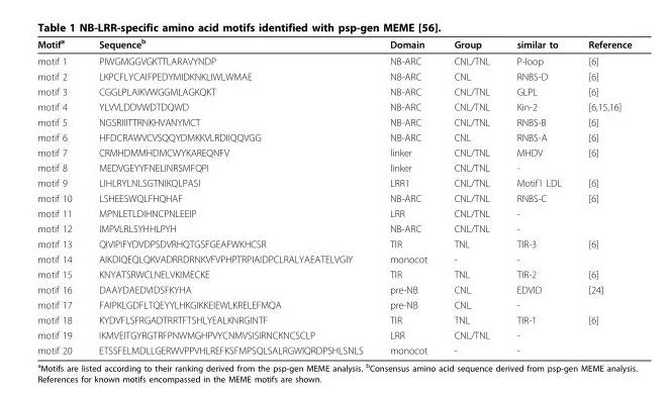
<table><thead><tr><td>Motif<sup>a</sup></td><td>Sequence<sup>b</sup></td><td>Domain</td><td>Group</td><td>similar to</td><td>Reference</td></tr></thead><tbody><tr><td>motif 1</td><td>PIWGMGGVGKTTLARAVYNDP</td><td>NB-ARC</td><td>CNL/TNL</td><td>P-loop</td><td>[6]</td></tr><tr><td>motif 2</td><td>LKPCFLYCAIFPEDYMIDKNKLIWLWMAE</td><td>NB-ARC</td><td>CNL</td><td>RNBS-D</td><td>[6]</td></tr><tr><td>motif 3</td><td>CGGLPLAIKVWGGMLAGKQKT</td><td>NB-ARC</td><td>CNL/TNL</td><td>GLPL</td><td>[6]</td></tr><tr><td>motif 4</td><td>YLVVLDDVWDTDQWD</td><td>NB-ARC</td><td>CNL/TNL</td><td>Kin-2</td><td>[6,15,16]</td></tr><tr><td>motif 5</td><td>NGSRIIITTRNKHVANYMCT</td><td>NB-ARC</td><td>CNL/TNL</td><td>RNBS-B</td><td>[6]</td></tr><tr><td>motif 6</td><td>HFDCRAWVCVSQQYDMKKVLRDIIQQVGG</td><td>NB-ARC</td><td>CNL</td><td>RNBS-A</td><td>[6]</td></tr><tr><td>motif 7</td><td>CRMHDMMHDMCWYKAREQNFV</td><td>linker</td><td>CNL/TNL</td><td>MHDV</td><td>[6]</td></tr><tr><td>motif 8</td><td>MEDVGEYYFNELINRSMFQPI</td><td>linker</td><td>CNL/TNL</td><td>-</td><td></td></tr><tr><td>motif 9</td><td>LIHLRYLNLSGTNIKQLPASI</td><td>LRR1</td><td>CNL/TNL</td><td>Motif1 LDL</td><td>[6]</td></tr><tr><td>motif 10</td><td>LSHEESWQLFHQHAF</td><td>NB-ARC</td><td>CNL/TNL</td><td>RNBS-C</td><td>[6]</td></tr><tr><td>motif 11</td><td>MPNLETLDIHNCPNLEEIP</td><td>LRR</td><td>CNL/TNL</td><td>-</td><td></td></tr><tr><td>motif 12</td><td>IMPVLRLSYHHLPYH</td><td>NB-ARC</td><td>CNL/TNL</td><td>-</td><td></td></tr><tr><td>motif 13</td><td>QIVIPIFYDVDPSDVRHQTGSFGEAFWKHCSR</td><td>TIR</td><td>TNL</td><td>TIR-3</td><td>[6]</td></tr><tr><td>motif 14</td><td>AIKDIQEQLQKVADRRDRNKVFVPHPTRPIAIDPCLRALYAEATELVGIY</td><td>monocot</td><td>-</td><td>-</td><td></td></tr><tr><td>motif 15</td><td>KNYATSRWCLNELVKIMECKE</td><td>TIR</td><td>TNL</td><td>TIR-2</td><td>[6]</td></tr><tr><td>motif 16</td><td>DAAYDAEDVIDSFKYHA</td><td>pre-NB</td><td>CNL</td><td>EDVID</td><td>[24]</td></tr><tr><td>motif 17</td><td>FAIPKLGDFLTQEYYLHKGIKKEIEWLKRELEFMQA</td><td>pre-NB</td><td>CNL</td><td>-</td><td></td></tr><tr><td>motif 18</td><td>KYDVFLSFRGADTRRTFTSHLYEALKNRGINTF</td><td>TIR</td><td>TNL</td><td>TIR-1</td><td>[6]</td></tr><tr><td>motif 19</td><td>IKMVEITGYRGTRFPNWMGHPVYCNMVSISIRNCKNCSCLP</td><td>LRR</td><td>CNL/TNL</td><td>-</td><td></td></tr><tr><td>motif 20</td><td>ETSSFELMDLLGERWVPPVHLREFKSFMPSQLSALRGWIQRDPSHLSNLS</td><td>monocot</td><td>-</td><td>-</td><td></td></tr></tbody></table>